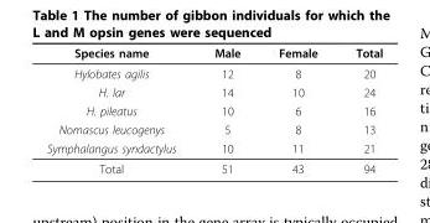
<table><thead><tr><td>Species name</td><td>Male</td><td>Female</td><td>Total</td></tr></thead><tbody><tr><td>Hylobates agilis</td><td>12</td><td>8</td><td>20</td></tr><tr><td>H. lar</td><td>14</td><td>10</td><td>24</td></tr><tr><td>H. pileatus</td><td>10</td><td>6</td><td>16</td></tr><tr><td>Nomascus leucogenys</td><td>5</td><td>8</td><td>13</td></tr><tr><td>Symphalangus syndactylus</td><td>10</td><td>11</td><td>21</td></tr><tr><td>Total</td><td>51</td><td>43</td><td>94</td></tr></tbody></table>